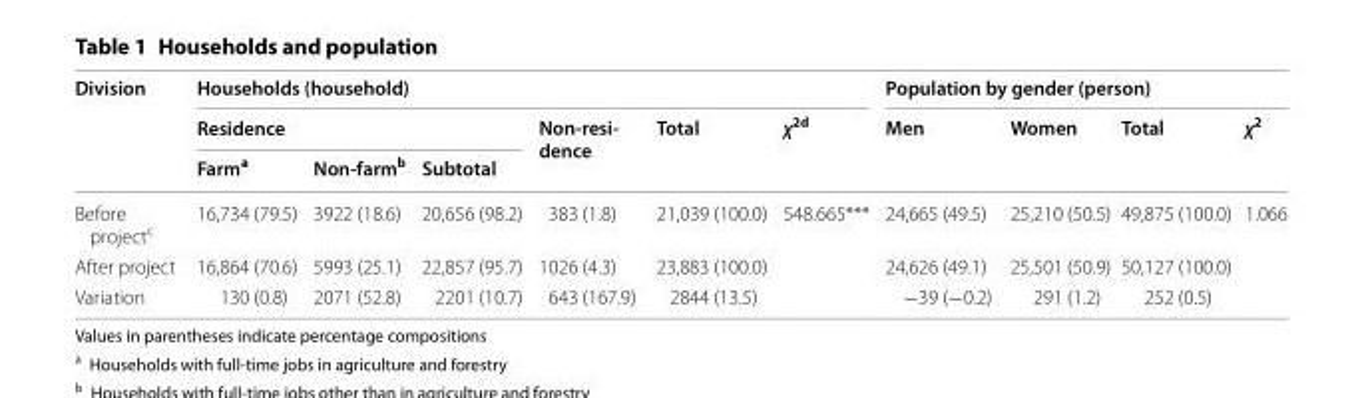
<table><thead><tr><td rowspan="3">Division</td><td colspan="6">Households (household)</td><td colspan="4">Population by gender (person)</td></tr><tr><td colspan="3">Residence</td><td rowspan="2">Non-resi- dence</td><td rowspan="2">Total</td><td rowspan="2">χ<sup>2d</sup></td><td rowspan="2">Men</td><td rowspan="2">Women</td><td rowspan="2">Total</td><td rowspan="2">χ<sup>2</sup></td></tr><tr><td>Farm<sup>a</sup></td><td>Non-farm<sup>b</sup></td><td>Subtotal</td></tr></thead><tbody><tr><td>Before project<sup>c</sup></td><td>16,734 (79.5)</td><td>3922 (18.6)</td><td>20,656 (98.2)</td><td>383 (1.8)</td><td>21,039 (100.0)</td><td rowspan="2">548.665***</td><td>24,665 (49.5)</td><td>25,210 (50.5)</td><td>49,875 (100.0)</td><td rowspan="2">1.066</td></tr><tr><td>After project</td><td>16,864 (70.6)</td><td>5993 (25.1)</td><td>22,857 (95.7)</td><td>1026 (4.3)</td><td>23,883 (100.0)</td><td>24,626 (49.1)</td><td>25,501 (50.9)</td><td>50,127 (100.0)</td></tr><tr><td>Variation</td><td>130 (0.8)</td><td>2071 (52.8)</td><td>2201 (10.7)</td><td>643 (167.9)</td><td>2844 (13.5)</td><td></td><td>−39 (−0.2)</td><td>291 (1.2)</td><td>252 (0.5)</td><td></td></tr></tbody></table>